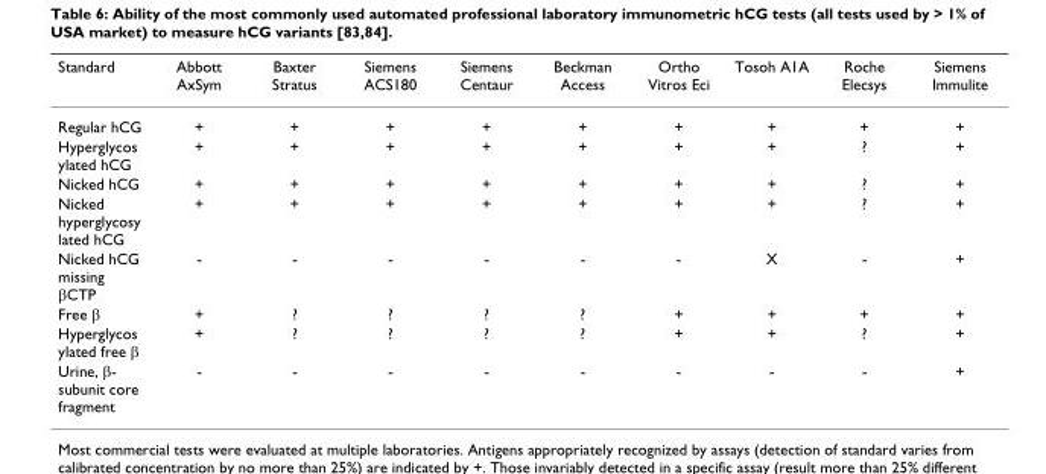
<table><thead><tr><td>Standard</td><td>Abbott AxSym</td><td>Baxter Stratus</td><td>Siemens ACS180</td><td>Siemens Centaur</td><td>Beckman Access</td><td>Ortho Vitros Eci</td><td>Tosoh A1A</td><td>Roche Elecsys</td><td>Siemens Immulite</td></tr></thead><tbody><tr><td>Regular hCG</td><td>+</td><td>+</td><td>+</td><td>+</td><td>+</td><td>+</td><td>+</td><td>+</td><td>+</td></tr><tr><td>Hyperglycos ylated hCG</td><td>+</td><td>+</td><td>+</td><td>+</td><td>+</td><td>+</td><td>+</td><td>?</td><td>+</td></tr><tr><td>Nicked hCG</td><td>+</td><td>+</td><td>+</td><td>+</td><td>+</td><td>+</td><td>+</td><td>?</td><td>+</td></tr><tr><td>Nicked hyperglycosy lated hCG</td><td>+</td><td>+</td><td>+</td><td>+</td><td>+</td><td>+</td><td>+</td><td>?</td><td>+</td></tr><tr><td>Nicked hCG missing βCTP</td><td>-</td><td>-</td><td>-</td><td>-</td><td>-</td><td>-</td><td>X</td><td>-</td><td>+</td></tr><tr><td>Free β</td><td>+</td><td>?</td><td>?</td><td>?</td><td>?</td><td>+</td><td>+</td><td>+</td><td>+</td></tr><tr><td>Hyperglycos ylated free β</td><td>+</td><td>?</td><td>?</td><td>?</td><td>?</td><td>+</td><td>+</td><td>?</td><td>+</td></tr><tr><td>Urine, β- subunit core fragment</td><td>-</td><td>-</td><td>-</td><td>-</td><td>-</td><td>-</td><td>-</td><td>-</td><td>+</td></tr></tbody></table>